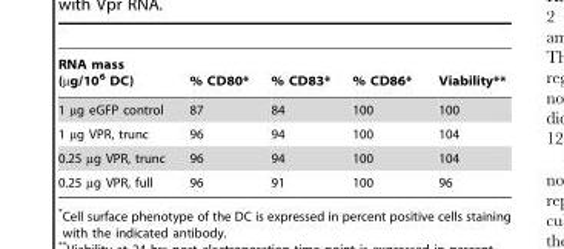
<table><thead><tr><td>RNA mass (µg/10<sup>6</sup> DC)</td><td>% CD80*</td><td>% CD83*</td><td>% CD86*</td><td>Viability**</td></tr></thead><tbody><tr><td>1 µg eGFP control</td><td>87</td><td>84</td><td>100</td><td>100</td></tr><tr><td>1 µg VPR, trunc</td><td>96</td><td>94</td><td>100</td><td>104</td></tr><tr><td>0.25 µg VPR, trunc</td><td>96</td><td>94</td><td>100</td><td>104</td></tr><tr><td>0.25 µg VPR, full</td><td>96</td><td>91</td><td>100</td><td>96</td></tr></tbody></table>